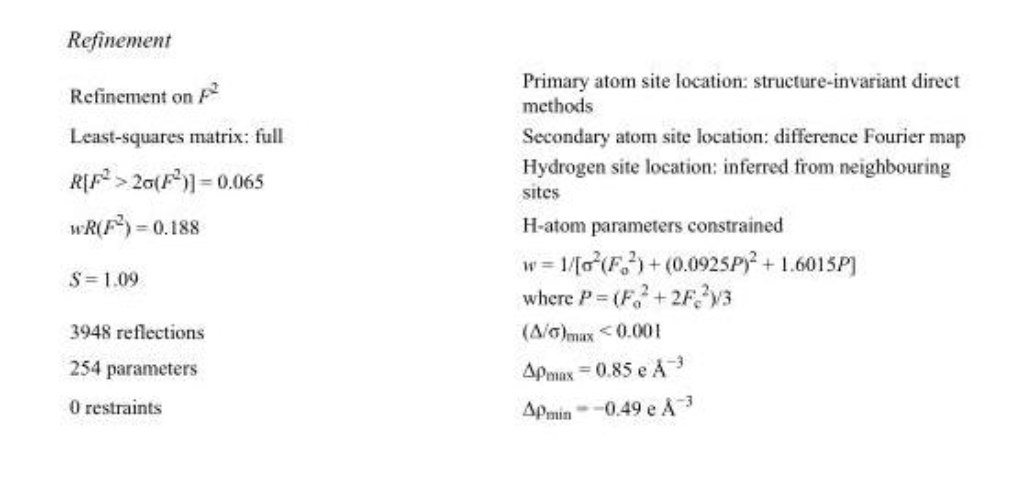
<table><tbody><tr><td>Refinement on F<sup>2</sup></td><td>Primary atom site location: structure-invariant direct methods</td></tr><tr><td>Least-squares matrix: full</td><td>Secondary atom site location: difference Fourier map</td></tr><tr><td>R[F<sup>2</sup> &gt; 2σ(F<sup>2</sup>)] = 0.065</td><td>Hydrogen site location: inferred from neighbouring sites</td></tr><tr><td>wR(F<sup>2</sup>) = 0.188</td><td>H-atom parameters constrained</td></tr><tr><td>S = 1.09</td><td>w = 1/[σ<sup>2</sup>(F<sub>o</sub> <sup>2</sup>) + (0.0925P)<sup>2</sup> + 1.6015P] where P = (F<sub>o</sub> <sup>2</sup> + 2F<sub>c</sub> <sup>2</sup>)/3</td></tr><tr><td>3948 reflections</td><td>(Δ/σ)<sub>max</sub> &lt; 0.001</td></tr><tr><td>254 parameters</td><td>Δρ<sub>max</sub> = 0.85 e Å<sup>−3</sup></td></tr><tr><td>0 restraints</td><td>Δρ<sub>min</sub> = −0.49 e Å<sup>−3</sup></td></tr></tbody></table>